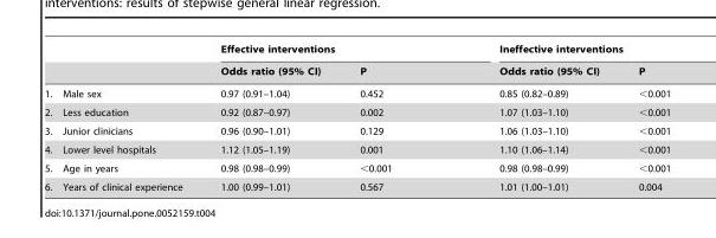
<table><thead><tr><td rowspan="2"></td><td colspan="2">Effective interventions</td><td colspan="2">Ineffective interventions</td></tr><tr><td>Odds ratio (95% CI)</td><td>P</td><td>Odds ratio (95% CI)</td><td>P</td></tr></thead><tbody><tr><td>1. Male sex</td><td>0.97 (0.91–1.04)</td><td>0.452</td><td>0.85 (0.82–0.89)</td><td>&lt;0.001</td></tr><tr><td>2. Less education</td><td>0.92 (0.87–0.97)</td><td>0.002</td><td>1.07 (1.03–1.10)</td><td>&lt;0.001</td></tr><tr><td>3. Junior clinicians</td><td>0.96 (0.90–1.01)</td><td>0.129</td><td>1.06 (1.03–1.10)</td><td>&lt;0.001</td></tr><tr><td>4. Lower level hospitals</td><td>1.12 (1.05–1.19)</td><td>0.001</td><td>1.10 (1.06–1.14)</td><td>&lt;0.001</td></tr><tr><td>5. Age in years</td><td>0.98 (0.98–0.99)</td><td>&lt;0.001</td><td>0.98 (0.98–0.99)</td><td>&lt;0.001</td></tr><tr><td>6. Years of clinical experience</td><td>1.00 (0.99–1.01)</td><td>0.567</td><td>1.01 (1.00–1.01)</td><td>0.004</td></tr></tbody></table>